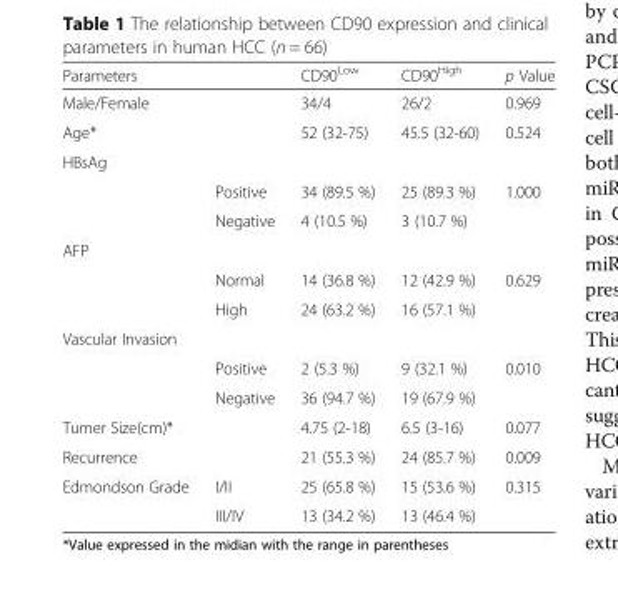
<table><thead><tr><td colspan="2">Parameters</td><td rowspan="2">CD90<sup>Low</sup> 34/4</td><td rowspan="2">CD90<sup>High</sup> 26/2</td><td rowspan="2">p Value 0.969</td></tr><tr><td>Male/Female</td><td></td></tr></thead><tbody><tr><td>Age*</td><td></td><td>52 (32-75)</td><td>45.5 (32-60)</td><td>0.524</td></tr><tr><td colspan="5">HBsAg</td></tr><tr><td></td><td>Positive</td><td>34 (89.5 %)</td><td>25 (89.3 %)</td><td rowspan="2">1.000</td></tr><tr><td></td><td>Negative</td><td>4 (10.5 %)</td><td>3 (10.7 %)</td></tr><tr><td colspan="5">AFP</td></tr><tr><td></td><td>Normal</td><td>14 (36.8 %)</td><td>12 (42.9 %)</td><td rowspan="2">0.629</td></tr><tr><td></td><td>High</td><td>24 (63.2 %)</td><td>16 (57.1 %)</td></tr><tr><td colspan="5">Vascular Invasion</td></tr><tr><td></td><td>Positive</td><td>2 (5.3 %)</td><td>9 (32.1 %)</td><td rowspan="2">0.010</td></tr><tr><td></td><td>Negative</td><td>36 (94.7 %)</td><td>19 (67.9 %)</td></tr><tr><td>Tumer Size(cm)*</td><td></td><td>4.75 (2-18)</td><td>6.5 (3-16)</td><td>0.077</td></tr><tr><td>Recurrence</td><td></td><td>21 (55.3 %)</td><td>24 (85.7 %)</td><td>0.009</td></tr><tr><td rowspan="2">Edmondson Grade</td><td>I/II</td><td>25 (65.8 %)</td><td>15 (53.6 %)</td><td rowspan="2">0.315</td></tr><tr><td>III/IV</td><td>13 (34.2 %)</td><td>13 (46.4 %)</td></tr></tbody></table>